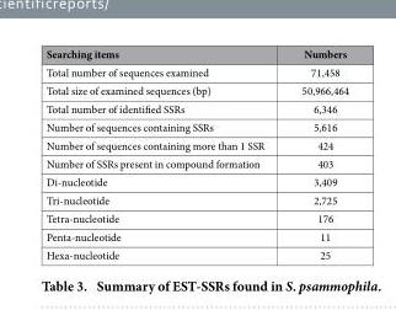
<table><thead><tr><td>Searching items</td><td>Numbers</td></tr></thead><tbody><tr><td>Total number of sequences examined</td><td>71,458</td></tr><tr><td>Total size of examined sequences (bp)</td><td>50,966,464</td></tr><tr><td>Total number of identified SSRs</td><td>6,346</td></tr><tr><td>Number of sequences containing SSRs</td><td>5,616</td></tr><tr><td>Number of sequences containing more than 1 SSR</td><td>424</td></tr><tr><td>Number of SSRs present in compound formation</td><td>403</td></tr><tr><td>Di-nucleotide</td><td>3,409</td></tr><tr><td>Tri-nucleotide</td><td>2,725</td></tr><tr><td>Tetra-nucleotide</td><td>176</td></tr><tr><td>Penta-nucleotide</td><td>11</td></tr><tr><td>Hexa-nucleotide</td><td>25</td></tr></tbody></table>